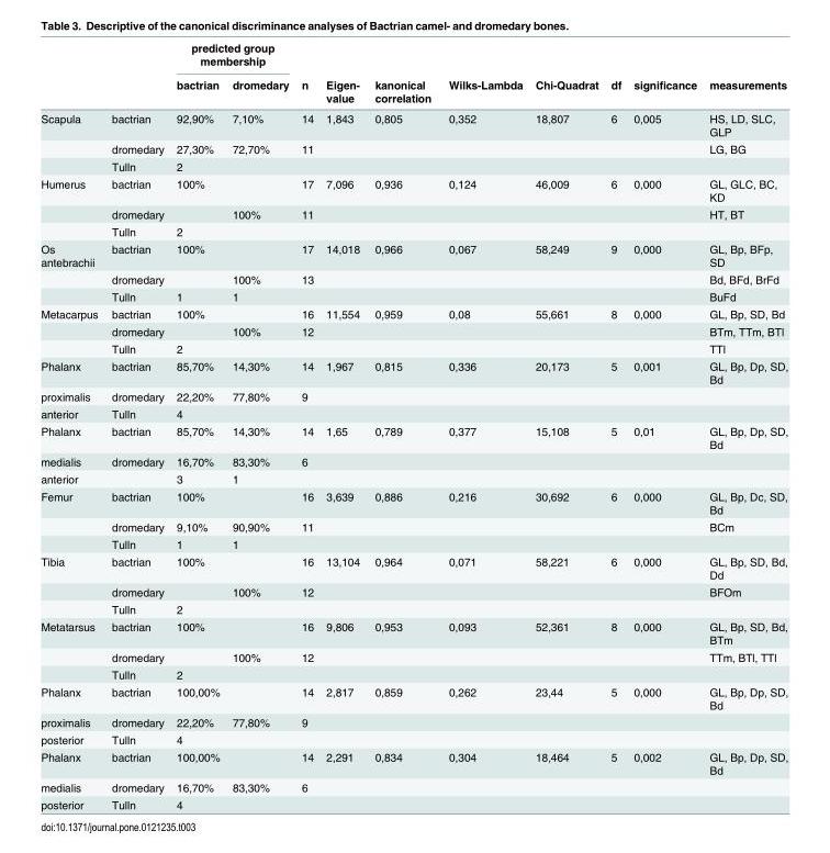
<table><thead><tr><td rowspan="2"></td><td rowspan="2"></td><td colspan="2">predicted group membership</td><td rowspan="2">n</td><td rowspan="2">Eigen- value</td><td rowspan="2">kanonical correlation</td><td rowspan="2">Wilks-Lambda</td><td rowspan="2">Chi-Quadrat</td><td rowspan="2">df</td><td rowspan="2">significance</td><td rowspan="2">measurements</td></tr><tr><td>bactrian</td><td>dromedary</td></tr></thead><tbody><tr><td rowspan="3">Scapula</td><td>bactrian</td><td>92,90%</td><td>7,10%</td><td>14</td><td>1,843</td><td>0,805</td><td>0,352</td><td>18,807</td><td>6</td><td>0,005</td><td>HS, LD, SLC, GLP</td></tr><tr><td>dromedary</td><td>27,30%</td><td>72,70%</td><td>11</td><td></td><td></td><td></td><td></td><td></td><td></td><td>LG, BG</td></tr><tr><td>Tulln</td><td>2</td><td></td><td></td><td></td><td></td><td></td><td></td><td></td><td></td><td></td></tr><tr><td rowspan="3">Humerus</td><td>bactrian</td><td>100%</td><td></td><td>17</td><td>7,096</td><td>0,936</td><td>0,124</td><td>46,009</td><td>6</td><td>0,000</td><td>GL, GLC, BC, KD</td></tr><tr><td>dromedary</td><td></td><td>100%</td><td>11</td><td></td><td></td><td></td><td></td><td></td><td></td><td>HT, BT</td></tr><tr><td>Tulln</td><td>2</td><td></td><td></td><td></td><td></td><td></td><td></td><td></td><td></td><td></td></tr><tr><td rowspan="3">Os antebrachii</td><td>bactrian</td><td>100%</td><td></td><td>17</td><td>14,018</td><td>0,966</td><td>0,067</td><td>58,249</td><td>9</td><td>0,000</td><td>GL, Bp, BFp, SD</td></tr><tr><td>dromedary</td><td></td><td>100%</td><td>13</td><td></td><td></td><td></td><td></td><td></td><td></td><td>Bd, BFd, BrFd</td></tr><tr><td>Tulln</td><td>1</td><td>1</td><td></td><td></td><td></td><td></td><td></td><td></td><td></td><td>BuFd</td></tr><tr><td rowspan="3">Metacarpus</td><td>bactrian</td><td>100%</td><td></td><td>16</td><td>11,554</td><td>0,959</td><td>0,08</td><td>55,661</td><td>8</td><td>0,000</td><td>GL, Bp, SD, Bd</td></tr><tr><td>dromedary</td><td></td><td>100%</td><td>12</td><td></td><td></td><td></td><td></td><td></td><td></td><td>BTm, TTm, BTl</td></tr><tr><td>Tulln</td><td>2</td><td></td><td></td><td></td><td></td><td></td><td></td><td></td><td></td><td>TTl</td></tr><tr><td>Phalanx</td><td>bactrian</td><td>85,70%</td><td>14,30%</td><td>14</td><td>1,967</td><td>0,815</td><td>0,336</td><td>20,173</td><td>5</td><td>0,001</td><td>GL, Bp, Dp, SD, Bd</td></tr><tr><td>proximalis</td><td>dromedary</td><td>22,20%</td><td>77,80%</td><td>9</td><td></td><td></td><td></td><td></td><td></td><td></td><td></td></tr><tr><td>anterior</td><td>Tulln</td><td>4</td><td></td><td></td><td></td><td></td><td></td><td></td><td></td><td></td><td></td></tr><tr><td>Phalanx</td><td>bactrian</td><td>85,70%</td><td>14,30%</td><td>14</td><td>1,65</td><td>0,789</td><td>0,377</td><td>15,108</td><td>5</td><td>0,01</td><td>GL, Bp, Dp, SD, Bd</td></tr><tr><td>medialis</td><td>dromedary</td><td>16,70%</td><td>83,30%</td><td>6</td><td></td><td></td><td></td><td></td><td></td><td></td><td></td></tr><tr><td>anterior</td><td></td><td>3</td><td>1</td><td></td><td></td><td></td><td></td><td></td><td></td><td></td><td></td></tr><tr><td rowspan="3">Femur</td><td>bactrian</td><td>100%</td><td></td><td>16</td><td>3,639</td><td>0,886</td><td>0,216</td><td>30,692</td><td>6</td><td>0,000</td><td>GL, Bp, Dc, SD, Bd</td></tr><tr><td>dromedary</td><td>9,10%</td><td>90,90%</td><td>11</td><td></td><td></td><td></td><td></td><td></td><td></td><td>BCm</td></tr><tr><td>Tulln</td><td>1</td><td>1</td><td></td><td></td><td></td><td></td><td></td><td></td><td></td><td></td></tr><tr><td rowspan="3">Tibia</td><td>bactrian</td><td>100%</td><td></td><td>16</td><td>13,104</td><td>0,964</td><td>0,071</td><td>58,221</td><td>6</td><td>0,000</td><td>GL, Bp, SD, Bd, Dd</td></tr><tr><td>dromedary</td><td></td><td>100%</td><td>12</td><td></td><td></td><td></td><td></td><td></td><td></td><td>BFOm</td></tr><tr><td>Tulln</td><td>2</td><td></td><td></td><td></td><td></td><td></td><td></td><td></td><td></td><td></td></tr><tr><td rowspan="3">Metatarsus</td><td>bactrian</td><td>100%</td><td></td><td>16</td><td>9,806</td><td>0,953</td><td>0,093</td><td>52,361</td><td>8</td><td>0,000</td><td>GL, Bp, SD, Bd, BTm</td></tr><tr><td>dromedary</td><td></td><td>100%</td><td>12</td><td></td><td></td><td></td><td></td><td></td><td></td><td>TTm, BTl, TTl</td></tr><tr><td>Tulln</td><td>2</td><td></td><td></td><td></td><td></td><td></td><td></td><td></td><td></td><td></td></tr><tr><td>Phalanx</td><td>bactrian</td><td>100,00%</td><td></td><td>14</td><td>2,817</td><td>0,859</td><td>0,262</td><td>23,44</td><td>5</td><td>0,000</td><td>GL, Bp, Dp, SD, Bd</td></tr><tr><td>proximalis</td><td>dromedary</td><td>22,20%</td><td>77,80%</td><td>9</td><td></td><td></td><td></td><td></td><td></td><td></td><td></td></tr><tr><td>posterior</td><td>Tulln</td><td>4</td><td></td><td></td><td></td><td></td><td></td><td></td><td></td><td></td><td></td></tr><tr><td>Phalanx</td><td>bactrian</td><td>100,00%</td><td></td><td>14</td><td>2,291</td><td>0,834</td><td>0,304</td><td>18,464</td><td>5</td><td>0,002</td><td>GL, Bp, Dp, SD, Bd</td></tr><tr><td>medialis</td><td>dromedary</td><td>16,70%</td><td>83,30%</td><td>6</td><td></td><td></td><td></td><td></td><td></td><td></td><td></td></tr><tr><td>posterior</td><td>Tulln</td><td>4</td><td></td><td></td><td></td><td></td><td></td><td></td><td></td><td></td><td></td></tr></tbody></table>